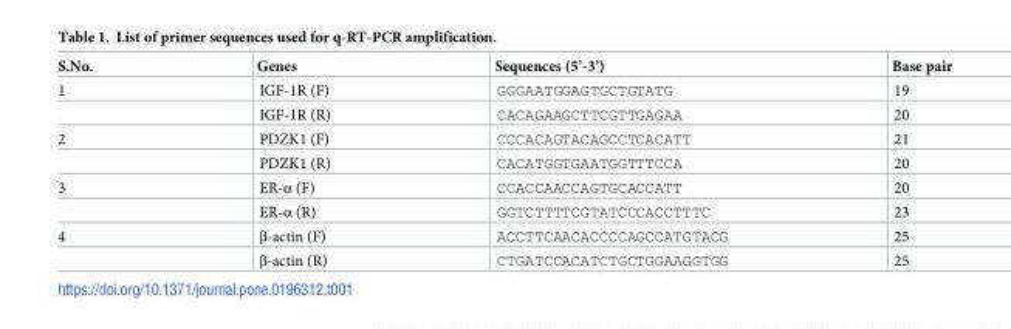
<table><thead><tr><td>S.No.</td><td>Genes</td><td>Sequences (5’-3’)</td><td>Base pair</td></tr></thead><tbody><tr><td rowspan="2">1</td><td>IGF-1R (F)</td><td>GGGAATGGAGTGCTGTATG</td><td>19</td></tr><tr><td>IGF-1R (R)</td><td>CACAGAAGCTTCGTTGAGAA</td><td>20</td></tr><tr><td rowspan="2">2</td><td>PDZK1 (F)</td><td>CCCACAGTACAGCCTCACATT</td><td>21</td></tr><tr><td>PDZK1 (R)</td><td>CACATGGTGAATGGTTTCCA</td><td>20</td></tr><tr><td rowspan="2">3</td><td>ER-α (F)</td><td>CCACCAACCAGTGCACCATT</td><td>20</td></tr><tr><td>ER-α (R)</td><td>GGTCTTTTCGTATCCCACCTTTC</td><td>23</td></tr><tr><td rowspan="2">4</td><td>β-actin (F)</td><td>ACCTTCAACACCCCAGCCATGTACG</td><td>25</td></tr><tr><td>β-actin (R)</td><td>CTGATCCACATCTGCTGGAAGGTGG</td><td>25</td></tr></tbody></table>